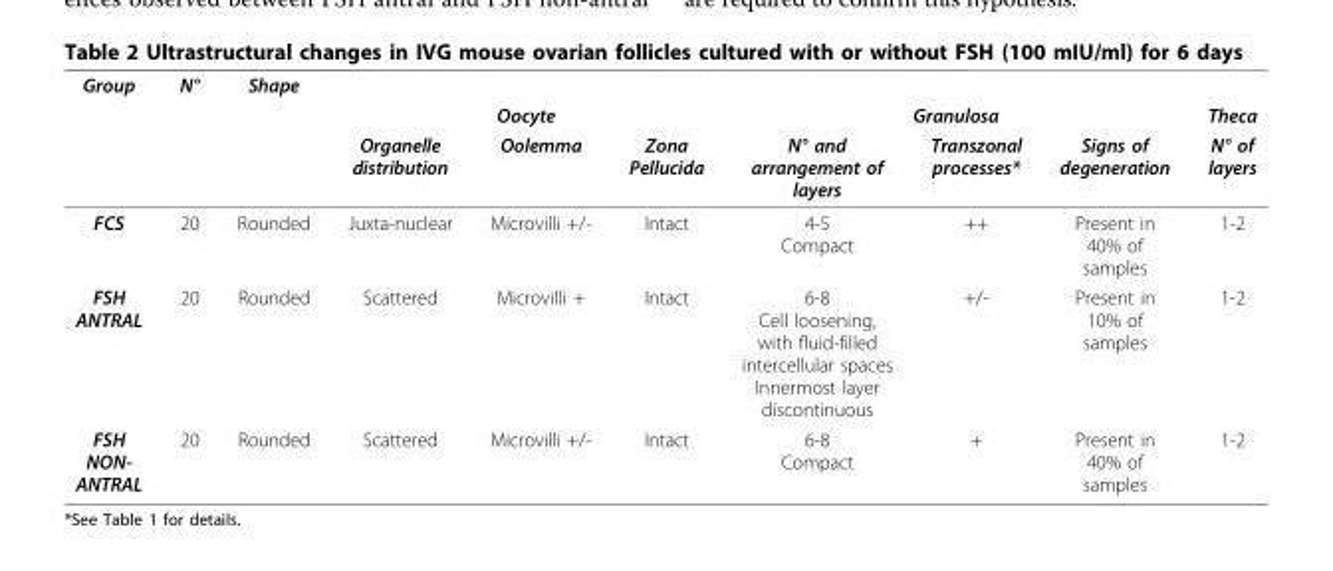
<table><thead><tr><td rowspan="3">Group</td><td rowspan="3">N°</td><td rowspan="3">Shape</td><td></td><td></td><td></td><td></td><td></td><td></td><td rowspan="3">Theca N° of layers</td></tr><tr><td colspan="3">Oocyte</td><td colspan="3">Granulosa</td></tr><tr><td>Organelle distribution</td><td>Oolemma</td><td>Zona Pellucida</td><td>N° and arrangement of layers</td><td>Transzonal processes*</td><td>Signs of degeneration</td></tr></thead><tbody><tr><td>FCS</td><td>20</td><td>Rounded</td><td>Juxta-nuclear</td><td>Microvilli +/-</td><td>Intact</td><td>4-5 Compact</td><td>++</td><td>Present in 40% of samples</td><td>1-2</td></tr><tr><td>FSH ANTRAL</td><td>20</td><td>Rounded</td><td>Scattered</td><td>Microvilli +</td><td>Intact</td><td>6-8 Cell loosening, with fluid-filled intercellular spaces Innermost layer discontinuous</td><td>+/-</td><td>Present in 10% of samples</td><td>1-2</td></tr><tr><td>FSH NON- ANTRAL</td><td>20</td><td>Rounded</td><td>Scattered</td><td>Microvilli +/-</td><td>Intact</td><td>6-8 Compact</td><td>+</td><td>Present in 40% of samples</td><td>1-2</td></tr></tbody></table>